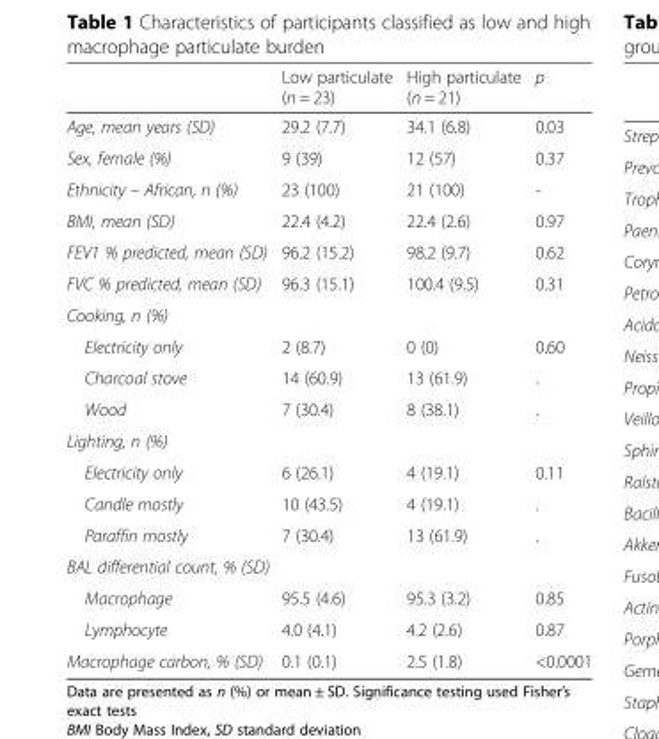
<table><thead><tr><td></td><td>Low particulate (n = 23)</td><td>High particulate (n = 21)</td><td>p</td></tr></thead><tbody><tr><td>Age, mean years (SD)</td><td>29.2 (7.7)</td><td>34.1 (6.8)</td><td>0.03</td></tr><tr><td>Sex, female (%)</td><td>9 (39)</td><td>12 (57)</td><td>0.37</td></tr><tr><td>Ethnicity – African, n (%)</td><td>23 (100)</td><td>21 (100)</td><td>-</td></tr><tr><td>BMI, mean (SD)</td><td>22.4 (4.2)</td><td>22.4 (2.6)</td><td>0.97</td></tr><tr><td>FEV1 % predicted, mean (SD)</td><td>96.2 (15.2)</td><td>98.2 (9.7)</td><td>0.62</td></tr><tr><td>FVC % predicted, mean (SD)</td><td>96.3 (15.1)</td><td>100.4 (9.5)</td><td>0.31</td></tr><tr><td colspan="4">Cooking, n (%)</td></tr><tr><td>Electricity only</td><td>2 (8.7)</td><td>0 (0)</td><td>0.60</td></tr><tr><td>Charcoal stove</td><td>14 (60.9)</td><td>13 (61.9)</td><td>.</td></tr><tr><td>Wood</td><td>7 (30.4)</td><td>8 (38.1)</td><td>.</td></tr><tr><td colspan="4">Lighting, n (%)</td></tr><tr><td>Electricity only</td><td>6 (26.1)</td><td>4 (19.1)</td><td>0.11</td></tr><tr><td>Candle mostly</td><td>10 (43.5)</td><td>4 (19.1)</td><td>.</td></tr><tr><td>Paraffin mostly</td><td>7 (30.4)</td><td>13 (61.9)</td><td>.</td></tr><tr><td colspan="4">BAL differential count, % (SD)</td></tr><tr><td>Macrophage</td><td>95.5 (4.6)</td><td>95.3 (3.2)</td><td>0.85</td></tr><tr><td>Lymphocyte</td><td>4.0 (4.1)</td><td>4.2 (2.6)</td><td>0.87</td></tr><tr><td>Macrophage carbon, % (SD)</td><td>0.1 (0.1)</td><td>2.5 (1.8)</td><td>&lt;0.0001</td></tr></tbody></table>